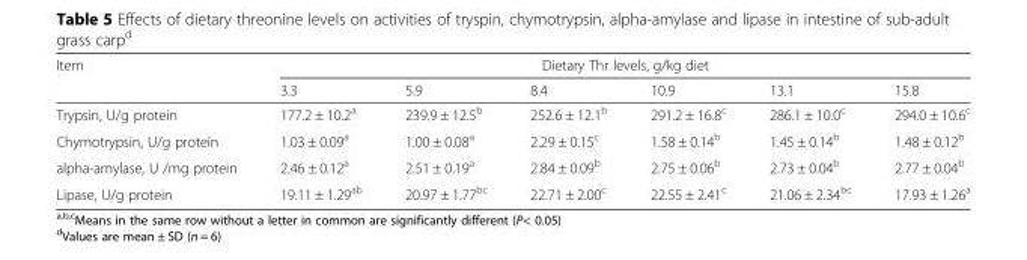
<table><thead><tr><td rowspan="2">Item</td><td colspan="6">Dietary Thr levels, g/kg diet</td></tr><tr><td>3.3</td><td>5.9</td><td>8.4</td><td>10.9</td><td>13.1</td><td>15.8</td></tr></thead><tbody><tr><td>Trypsin, U/g protein</td><td>177.2 ± 10.2<sup>a</sup></td><td>239.9 ± 12.5<sup>b</sup></td><td>252.6 ± 12.1<sup>b</sup></td><td>291.2 ± 16.8<sup>c</sup></td><td>286.1 ± 10.0<sup>c</sup></td><td>294.0 ± 10.6<sup>c</sup></td></tr><tr><td>Chymotrypsin, U/g protein</td><td>1.03 ± 0.09<sup>a</sup></td><td>1.00 ± 0.08<sup>a</sup></td><td>2.29 ± 0.15<sup>c</sup></td><td>1.58 ± 0.14<sup>b</sup></td><td>1.45 ± 0.14<sup>b</sup></td><td>1.48 ± 0.12<sup>b</sup></td></tr><tr><td>alpha-amylase, U /mg protein</td><td>2.46 ± 0.12<sup>a</sup></td><td>2.51 ± 0.19<sup>a</sup></td><td>2.84 ± 0.09<sup>b</sup></td><td>2.75 ± 0.06<sup>b</sup></td><td>2.73 ± 0.04<sup>b</sup></td><td>2.77 ± 0.04<sup>b</sup></td></tr><tr><td>Lipase, U/g protein</td><td>19.11 ± 1.29<sup>ab</sup></td><td>20.97 ± 1.77<sup>bc</sup></td><td>22.71 ± 2.00<sup>c</sup></td><td>22.55 ± 2.41<sup>c</sup></td><td>21.06 ± 2.34<sup>bc</sup></td><td>17.93 ± 1.26<sup>a</sup></td></tr></tbody></table>